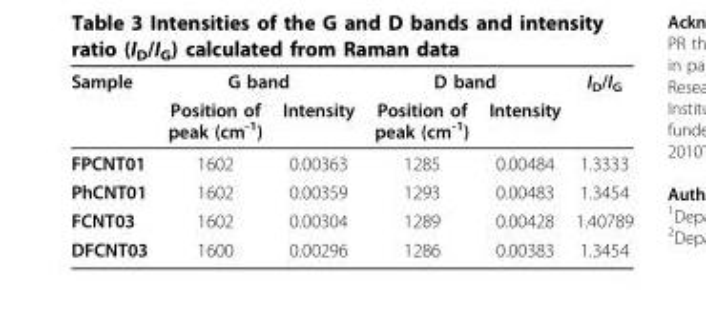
<table><thead><tr><td rowspan="2">Sample</td><td colspan="2">G band</td><td colspan="2">D band</td><td rowspan="2">I<sub>D</sub>/I<sub>G</sub></td></tr><tr><td>Position of peak (cm<sup>-1</sup>)</td><td>Intensity</td><td>Position of peak (cm<sup>-1</sup>)</td><td>Intensity</td></tr></thead><tbody><tr><td>FPCNT01</td><td>1602</td><td>0.00363</td><td>1285</td><td>0.00484</td><td>1.3333</td></tr><tr><td>PhCNT01</td><td>1602</td><td>0.00359</td><td>1293</td><td>0.00483</td><td>1.3454</td></tr><tr><td>FCNT03</td><td>1602</td><td>0.00304</td><td>1289</td><td>0.00428</td><td>1.40789</td></tr><tr><td>DFCNT03</td><td>1600</td><td>0.00296</td><td>1286</td><td>0.00383</td><td>1.3454</td></tr></tbody></table>